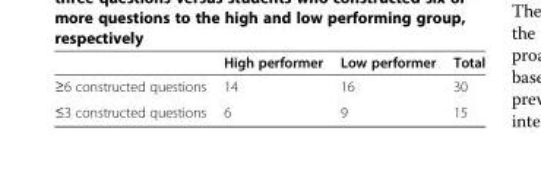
<table><thead><tr><td></td><td>High performer</td><td>Low performer</td><td>Total</td></tr></thead><tbody><tr><td>≥6 constructed questions</td><td>14</td><td>16</td><td>30</td></tr><tr><td>≤3 constructed questions</td><td>6</td><td>9</td><td>15</td></tr></tbody></table>